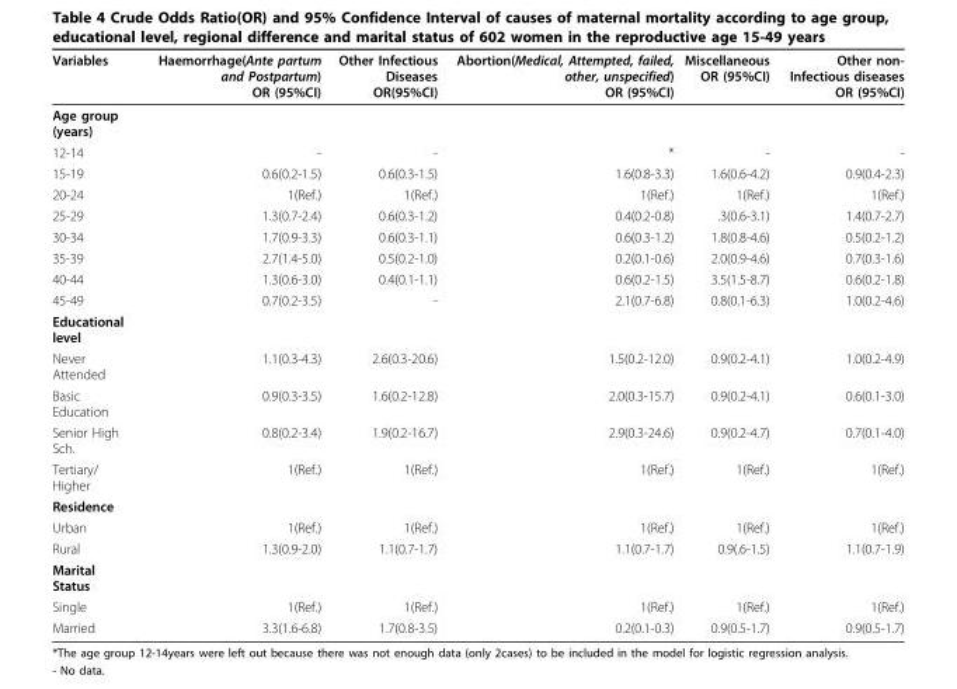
<table><thead><tr><td>Variables</td><td>Haemorrhage(Ante partum and Postpartum) OR (95%CI)</td><td>Other Infectious Diseases OR(95%CI)</td><td>Abortion(Medical, Attempted, failed, other, unspecified) OR (95%CI)</td><td>Miscellaneous OR (95%CI)</td><td>Other non- Infectious diseases OR (95%CI)</td></tr></thead><tbody><tr><td colspan="6">Age group (years)</td></tr><tr><td>12-14</td><td>-</td><td>-</td><td>*</td><td>-</td><td>-</td></tr><tr><td>15-19</td><td>0.6(0.2-1.5)</td><td>0.6(0.3-1.5)</td><td>1.6(0.8-3.3)</td><td>1.6(0.6-4.2)</td><td>0.9(0.4-2.3)</td></tr><tr><td>20-24</td><td>1(Ref.)</td><td>1(Ref.)</td><td>1(Ref.)</td><td>1(Ref.)</td><td>1(Ref.)</td></tr><tr><td>25-29</td><td>1.3(0.7-2.4)</td><td>0.6(0.3-1.2)</td><td>0.4(0.2-0.8)</td><td>.3(0.6-3.1)</td><td>1.4(0.7-2.7)</td></tr><tr><td>30-34</td><td>1.7(0.9-3.3)</td><td>0.6(0.3-1.1)</td><td>0.6(0.3-1.2)</td><td>1.8(0.8-4.6)</td><td>0.5(0.2-1.2)</td></tr><tr><td>35-39</td><td>2.7(1.4-5.0)</td><td>0.5(0.2-1.0)</td><td>0.2(0.1-0.6)</td><td>2.0(0.9-4.6)</td><td>0.7(0.3-1.6)</td></tr><tr><td>40-44</td><td>1.3(0.6-3.0)</td><td>0.4(0.1-1.1)</td><td>0.6(0.2-1.5)</td><td>3.5(1.5-8.7)</td><td>0.6(0.2-1.8)</td></tr><tr><td>45-49</td><td>0.7(0.2-3.5)</td><td>-</td><td>2.1(0.7-6.8)</td><td>0.8(0.1-6.3)</td><td>1.0(0.2-4.6)</td></tr><tr><td colspan="6">Educational level</td></tr><tr><td>Never Attended</td><td>1.1(0.3-4.3)</td><td>2.6(0.3-20.6)</td><td>1.5(0.2-12.0)</td><td>0.9(0.2-4.1)</td><td>1.0(0.2-4.9)</td></tr><tr><td>Basic Education</td><td>0.9(0.3-3.5)</td><td>1.6(0.2-12.8)</td><td>2.0(0.3-15.7)</td><td>0.9(0.2-4.1)</td><td>0.6(0.1-3.0)</td></tr><tr><td>Senior High Sch.</td><td>0.8(0.2-3.4)</td><td>1.9(0.2-16.7)</td><td>2.9(0.3-24.6)</td><td>0.9(0.2-4.7)</td><td>0.7(0.1-4.0)</td></tr><tr><td>Tertiary/ Higher</td><td>1(Ref.)</td><td>1(Ref.)</td><td>1(Ref.)</td><td>1(Ref.)</td><td>1(Ref.)</td></tr><tr><td colspan="6">Residence</td></tr><tr><td>Urban</td><td>1(Ref.)</td><td>1(Ref.)</td><td>1(Ref.)</td><td>1(Ref.)</td><td>1(Ref.)</td></tr><tr><td>Rural</td><td>1.3(0.9-2.0)</td><td>1.1(0.7-1.7)</td><td>1.1(0.7-1.7)</td><td>0.9(.6-1.5)</td><td>1.1(0.7-1.9)</td></tr><tr><td colspan="6">Marital Status</td></tr><tr><td>Single</td><td>1(Ref.)</td><td>1(Ref.)</td><td>1(Ref.)</td><td>1(Ref.)</td><td>1(Ref.)</td></tr><tr><td>Married</td><td>3.3(1.6-6.8)</td><td>1.7(0.8-3.5)</td><td>0.2(0.1-0.3)</td><td>0.9(0.5-1.7)</td><td>0.9(0.5-1.7)</td></tr></tbody></table>